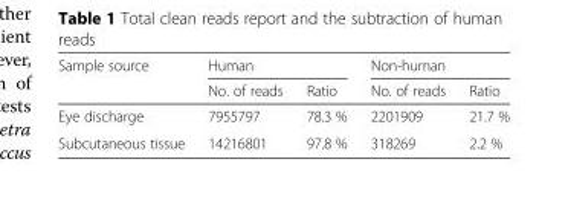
<table><thead><tr><td rowspan="2">Sample source</td><td colspan="2">Human</td><td colspan="2">Non-human</td></tr><tr><td>No. of reads</td><td>Ratio</td><td>No. of reads</td><td>Ratio</td></tr></thead><tbody><tr><td>Eye discharge</td><td>7955797</td><td>78.3 %</td><td>2201909</td><td>21.7 %</td></tr><tr><td>Subcutaneous tissue</td><td>14216801</td><td>97.8 %</td><td>318269</td><td>2.2 %</td></tr></tbody></table>